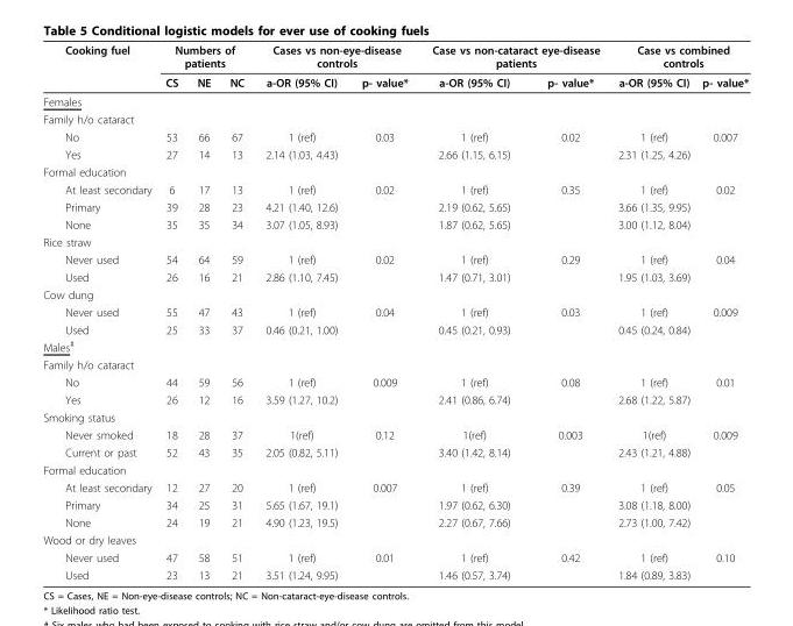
<table><thead><tr><td rowspan="2">Cooking fuel</td><td colspan="3">Numbers of patients</td><td colspan="2">Cases vs non-eye-disease controls</td><td colspan="2">Case vs non-cataract eye-disease patients</td><td colspan="2">Case vs combined controls</td></tr><tr><td>CS</td><td>NE</td><td>NC</td><td>a-OR (95% CI)</td><td>p- value*</td><td>a-OR (95% CI)</td><td>p- value*</td><td>a-OR (95% CI)</td><td>p- value*</td></tr></thead><tbody><tr><td colspan="10">Females</td></tr><tr><td colspan="10">Family h/o cataract</td></tr><tr><td>No</td><td>53</td><td>66</td><td>67</td><td>1 (ref)</td><td>0.03</td><td>1 (ref)</td><td>0.02</td><td>1 (ref)</td><td>0.007</td></tr><tr><td>Yes</td><td>27</td><td>14</td><td>13</td><td>2.14 (1.03, 4.43)</td><td></td><td>2.66 (1.15, 6.15)</td><td></td><td>2.31 (1.25, 4.26)</td><td></td></tr><tr><td colspan="10">Formal education</td></tr><tr><td>At least secondary</td><td>6</td><td>17</td><td>13</td><td>1 (ref)</td><td>0.02</td><td>1 (ref)</td><td>0.35</td><td>1 (ref)</td><td>0.02</td></tr><tr><td>Primary</td><td>39</td><td>28</td><td>23</td><td>4.21 (1.40, 12.6)</td><td></td><td>2.19 (0.62, 5.65)</td><td></td><td>3.66 (1.35, 9.95)</td><td></td></tr><tr><td>None</td><td>35</td><td>35</td><td>34</td><td>3.07 (1.05, 8.93)</td><td></td><td>1.87 (0.62, 5.65)</td><td></td><td>3.00 (1.12, 8.04)</td><td></td></tr><tr><td colspan="10">Rice straw</td></tr><tr><td>Never used</td><td>54</td><td>64</td><td>59</td><td>1 (ref)</td><td>0.02</td><td>1 (ref)</td><td>0.29</td><td>1 (ref)</td><td>0.04</td></tr><tr><td>Used</td><td>26</td><td>16</td><td>21</td><td>2.86 (1.10, 7.45)</td><td></td><td>1.47 (0.71, 3.01)</td><td></td><td>1.95 (1.03, 3.69)</td><td></td></tr><tr><td colspan="10">Cow dung</td></tr><tr><td>Never used</td><td>55</td><td>47</td><td>43</td><td>1 (ref)</td><td>0.04</td><td>1 (ref)</td><td>0.03</td><td>1 (ref)</td><td>0.009</td></tr><tr><td>Used</td><td>25</td><td>33</td><td>37</td><td>0.46 (0.21, 1.00)</td><td></td><td>0.45 (0.21, 0.93)</td><td></td><td>0.45 (0.24, 0.84)</td><td></td></tr><tr><td colspan="10">Males<sup>#</sup></td></tr><tr><td colspan="10">Family h/o cataract</td></tr><tr><td>No</td><td>44</td><td>59</td><td>56</td><td>1 (ref)</td><td>0.009</td><td>1 (ref)</td><td>0.08</td><td>1 (ref)</td><td>0.01</td></tr><tr><td>Yes</td><td>26</td><td>12</td><td>16</td><td>3.59 (1.27, 10.2)</td><td></td><td>2.41 (0.86, 6.74)</td><td></td><td>2.68 (1.22, 5.87)</td><td></td></tr><tr><td colspan="10">Smoking status</td></tr><tr><td>Never smoked</td><td>18</td><td>28</td><td>37</td><td>1(ref)</td><td>0.12</td><td>1(ref)</td><td>0.003</td><td>1(ref)</td><td>0.009</td></tr><tr><td>Current or past</td><td>52</td><td>43</td><td>35</td><td>2.05 (0.82, 5.11)</td><td></td><td>3.40 (1.42, 8.14)</td><td></td><td>2.43 (1.21, 4.88)</td><td></td></tr><tr><td colspan="10">Formal education</td></tr><tr><td>At least secondary</td><td>12</td><td>27</td><td>20</td><td>1 (ref)</td><td>0.007</td><td>1 (ref)</td><td>0.39</td><td>1 (ref)</td><td>0.05</td></tr><tr><td>Primary</td><td>34</td><td>25</td><td>31</td><td>5.65 (1.67, 19.1)</td><td></td><td>1.97 (0.62, 6.30)</td><td></td><td>3.08 (1.18, 8.00)</td><td></td></tr><tr><td>None</td><td>24</td><td>19</td><td>21</td><td>4.90 (1.23, 19.5)</td><td></td><td>2.27 (0.67, 7.66)</td><td></td><td>2.73 (1.00, 7.42)</td><td></td></tr><tr><td colspan="10">Wood or dry leaves</td></tr><tr><td>Never used</td><td>47</td><td>58</td><td>51</td><td>1 (ref)</td><td>0.01</td><td>1 (ref)</td><td>0.42</td><td>1 (ref)</td><td>0.10</td></tr><tr><td>Used</td><td>23</td><td>13</td><td>21</td><td>3.51 (1.24, 9.95)</td><td></td><td>1.46 (0.57, 3.74)</td><td></td><td>1.84 (0.89, 3.83)</td><td></td></tr></tbody></table>